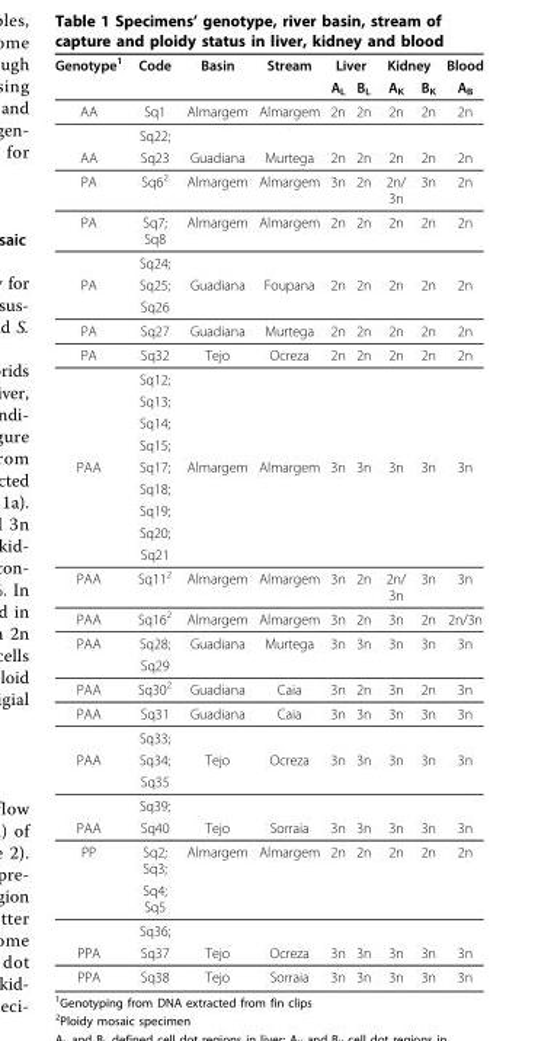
<table><thead><tr><td rowspan="2">Genotype1</td><td rowspan="2">Code</td><td rowspan="2">Basin</td><td rowspan="2">Stream</td><td colspan="2">Liver</td><td colspan="2">Kidney</td><td rowspan="2">Blood AB</td></tr><tr><td>AL</td><td>BL</td><td>AK</td><td>BK</td></tr></thead><tbody><tr><td rowspan="2">AA</td><td>Sq1</td><td>Almargem</td><td>Almargem</td><td>2n</td><td>2n</td><td>2n</td><td>2n</td><td>2n</td></tr><tr><td>Sq22;</td><td></td><td></td><td></td><td></td><td></td><td></td><td></td></tr><tr><td>AA</td><td>Sq23</td><td>Guadiana</td><td>Murtega</td><td>2n</td><td>2n</td><td>2n</td><td>2n</td><td>2n</td></tr><tr><td>PA</td><td>Sq62</td><td>Almargem</td><td>Almargem</td><td>3n</td><td>2n</td><td>2n/ 3n</td><td>3n</td><td>2n</td></tr><tr><td rowspan="2">PA</td><td>Sq7; Sq8</td><td>Almargem</td><td>Almargem</td><td>2n</td><td>2n</td><td>2n</td><td>2n</td><td>2n</td></tr><tr><td>Sq24;</td><td></td><td></td><td></td><td></td><td></td><td></td><td></td></tr><tr><td rowspan="2">PA</td><td>Sq25;</td><td>Guadiana</td><td>Foupana</td><td>2n</td><td>2n</td><td>2n</td><td>2n</td><td>2n</td></tr><tr><td>Sq26</td><td></td><td></td><td></td><td></td><td></td><td></td><td></td></tr><tr><td>PA</td><td>Sq27</td><td>Guadiana</td><td>Murtega</td><td>2n</td><td>2n</td><td>2n</td><td>2n</td><td>2n</td></tr><tr><td rowspan="5">PA</td><td>Sq32</td><td>Tejo</td><td>Ocreza</td><td>2n</td><td>2n</td><td>2n</td><td>2n</td><td>2n</td></tr><tr><td>Sq12;</td><td></td><td></td><td></td><td></td><td></td><td></td><td></td></tr><tr><td>Sq13;</td><td></td><td></td><td></td><td></td><td></td><td></td><td></td></tr><tr><td>Sq14;</td><td></td><td></td><td></td><td></td><td></td><td></td><td></td></tr><tr><td>Sq15;</td><td></td><td></td><td></td><td></td><td></td><td></td><td></td></tr><tr><td rowspan="5">PAA</td><td>Sq17;</td><td>Almargem</td><td>Almargem</td><td>3n</td><td>3n</td><td>3n</td><td>3n</td><td>3n</td></tr><tr><td>Sq18;</td><td></td><td></td><td></td><td></td><td></td><td></td><td></td></tr><tr><td>Sq19;</td><td></td><td></td><td></td><td></td><td></td><td></td><td></td></tr><tr><td>Sq20;</td><td></td><td></td><td></td><td></td><td></td><td></td><td></td></tr><tr><td>Sq21</td><td></td><td></td><td></td><td></td><td></td><td></td><td></td></tr><tr><td>PAA</td><td>Sq112</td><td>Almargem</td><td>Almargem</td><td>3n</td><td>2n</td><td>2n/ 3n</td><td>3n</td><td>3n</td></tr><tr><td>PAA</td><td>Sq162</td><td>Almargem</td><td>Almargem</td><td>3n</td><td>2n</td><td>3n</td><td>2n</td><td>2n/3n</td></tr><tr><td rowspan="2">PAA</td><td>Sq28;</td><td>Guadiana</td><td>Murtega</td><td>3n</td><td>3n</td><td>3n</td><td>3n</td><td>3n</td></tr><tr><td>Sq29</td><td></td><td></td><td></td><td></td><td></td><td></td><td></td></tr><tr><td>PAA</td><td>Sq302</td><td>Guadiana</td><td>Caia</td><td>3n</td><td>2n</td><td>3n</td><td>2n</td><td>3n</td></tr><tr><td rowspan="2">PAA</td><td>Sq31</td><td>Guadiana</td><td>Caia</td><td>3n</td><td>3n</td><td>3n</td><td>3n</td><td>3n</td></tr><tr><td>Sq33;</td><td></td><td></td><td></td><td></td><td></td><td></td><td></td></tr><tr><td rowspan="3">PAA</td><td>Sq34;</td><td>Tejo</td><td>Ocreza</td><td>3n</td><td>3n</td><td>3n</td><td>3n</td><td>3n</td></tr><tr><td>Sq35</td><td></td><td></td><td></td><td></td><td></td><td></td><td></td></tr><tr><td>Sq39;</td><td></td><td></td><td></td><td></td><td></td><td></td><td></td></tr><tr><td>PAA</td><td>Sq40</td><td>Tejo</td><td>Sorraia</td><td>3n</td><td>3n</td><td>3n</td><td>3n</td><td>3n</td></tr><tr><td rowspan="3">PP</td><td>Sq2; Sq3;</td><td>Almargem</td><td>Almargem</td><td>2n</td><td>2n</td><td>2n</td><td>2n</td><td>2n</td></tr><tr><td>Sq4; Sq5</td><td></td><td></td><td></td><td></td><td></td><td></td><td></td></tr><tr><td>Sq36;</td><td></td><td></td><td></td><td></td><td></td><td></td><td></td></tr><tr><td>PPA</td><td>Sq37</td><td>Tejo</td><td>Ocreza</td><td>3n</td><td>3n</td><td>3n</td><td>3n</td><td>3n</td></tr><tr><td>PPA</td><td>Sq38</td><td>Tejo</td><td>Sorraia</td><td>3n</td><td>3n</td><td>3n</td><td>3n</td><td>3n</td></tr></tbody></table>